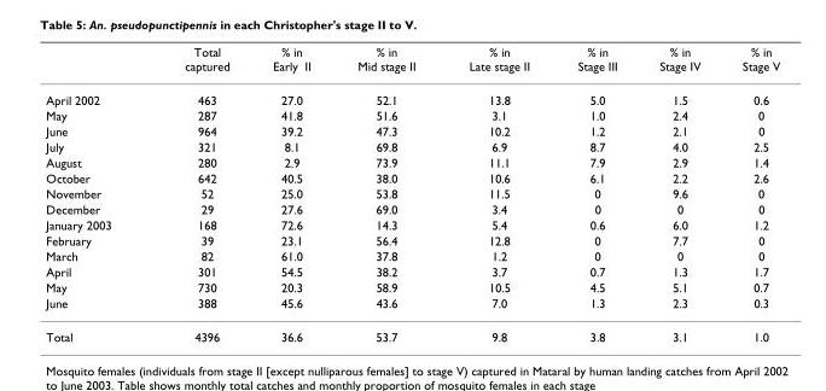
<table><thead><tr><td></td><td>Total captured</td><td>% in Early II</td><td>% in Mid stage II</td><td>% in Late stage II</td><td>% in Stage III</td><td>% in Stage IV</td><td>% in Stage V</td></tr></thead><tbody><tr><td>April 2002</td><td>463</td><td>27.0</td><td>52.1</td><td>13.8</td><td>5.0</td><td>1.5</td><td>0.6</td></tr><tr><td>May</td><td>287</td><td>41.8</td><td>51.6</td><td>3.1</td><td>1.0</td><td>2.4</td><td>0</td></tr><tr><td>June</td><td>964</td><td>39.2</td><td>47.3</td><td>10.2</td><td>1.2</td><td>2.1</td><td>0</td></tr><tr><td>July</td><td>321</td><td>8.1</td><td>69.8</td><td>6.9</td><td>8.7</td><td>4.0</td><td>2.5</td></tr><tr><td>August</td><td>280</td><td>2.9</td><td>73.9</td><td>11.1</td><td>7.9</td><td>2.9</td><td>1.4</td></tr><tr><td>October</td><td>642</td><td>40.5</td><td>38.0</td><td>10.6</td><td>6.1</td><td>2.2</td><td>2.6</td></tr><tr><td>November</td><td>52</td><td>25.0</td><td>53.8</td><td>11.5</td><td>0</td><td>9.6</td><td>0</td></tr><tr><td>December</td><td>29</td><td>27.6</td><td>69.0</td><td>3.4</td><td>0</td><td>0</td><td>0</td></tr><tr><td>January 2003</td><td>168</td><td>72.6</td><td>14.3</td><td>5.4</td><td>0.6</td><td>6.0</td><td>1.2</td></tr><tr><td>February</td><td>39</td><td>23.1</td><td>56.4</td><td>12.8</td><td>0</td><td>7.7</td><td>0</td></tr><tr><td>March</td><td>82</td><td>61.0</td><td>37.8</td><td>1.2</td><td>0</td><td>0</td><td>0</td></tr><tr><td>April</td><td>301</td><td>54.5</td><td>38.2</td><td>3.7</td><td>0.7</td><td>1.3</td><td>1.7</td></tr><tr><td>May</td><td>730</td><td>20.3</td><td>58.9</td><td>10.5</td><td>4.5</td><td>5.1</td><td>0.7</td></tr><tr><td>June</td><td>388</td><td>45.6</td><td>43.6</td><td>7.0</td><td>1.3</td><td>2.3</td><td>0.3</td></tr><tr><td>Total</td><td>4396</td><td>36.6</td><td>53.7</td><td>9.8</td><td>3.8</td><td>3.1</td><td>1.0</td></tr></tbody></table>